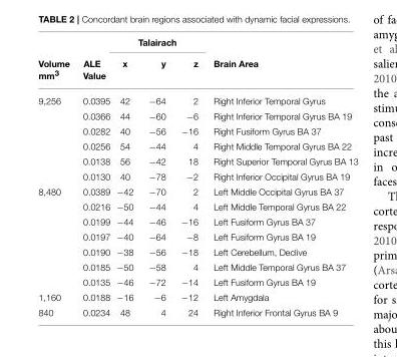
<table><thead><tr><td rowspan="2">Volume mm<sup>3</sup></td><td rowspan="2">ALE Value</td><td colspan="3">Talairach</td><td rowspan="2">Brain Area</td></tr><tr><td>x</td><td>y</td><td>z</td></tr></thead><tbody><tr><td rowspan="6">9,256</td><td>0.0395</td><td>42</td><td>−64</td><td>2</td><td>Right Inferior Temporal Gyrus</td></tr><tr><td>0.0366</td><td>44</td><td>−60</td><td>−6</td><td>Right Inferior Temporal Gyrus BA 19</td></tr><tr><td>0.0282</td><td>40</td><td>−56</td><td>−16</td><td>Right Fusiform Gyrus BA 37</td></tr><tr><td>0.0256</td><td>54</td><td>−44</td><td>4</td><td>Right Middle Temporal Gyrus BA 22</td></tr><tr><td>0.0138</td><td>56</td><td>−42</td><td>18</td><td>Right Superior Temporal Gyrus BA 13</td></tr><tr><td>0.0130</td><td>40</td><td>−78</td><td>−2</td><td>Right Inferior Occipital Gyrus BA 19</td></tr><tr><td rowspan="7">8,480</td><td>0.0389</td><td>−42</td><td>−70</td><td>2</td><td>Left Middle Occipital Gyrus BA 37</td></tr><tr><td>0.0216</td><td>−50</td><td>−44</td><td>4</td><td>Left Middle Temporal Gyrus BA 22</td></tr><tr><td>0.0199</td><td>−44</td><td>−46</td><td>−16</td><td>Left Fusiform Gyrus BA 37</td></tr><tr><td>0.0197</td><td>−40</td><td>−64</td><td>−8</td><td>Left Fusiform Gyrus BA 19</td></tr><tr><td>0.0190</td><td>−38</td><td>−56</td><td>−18</td><td>Left Cerebellum, Declive</td></tr><tr><td>0.0185</td><td>−50</td><td>−58</td><td>4</td><td>Left Middle Temporal Gyrus BA 37</td></tr><tr><td>0.0135</td><td>−46</td><td>−72</td><td>−14</td><td>Left Fusiform Gyrus BA 19</td></tr><tr><td>1,160</td><td>0.0188</td><td>−16</td><td>−6</td><td>−12</td><td>Left Amygdala</td></tr><tr><td>840</td><td>0.0234</td><td>48</td><td>4</td><td>24</td><td>Right Inferior Frontal Gyrus BA 9</td></tr></tbody></table>